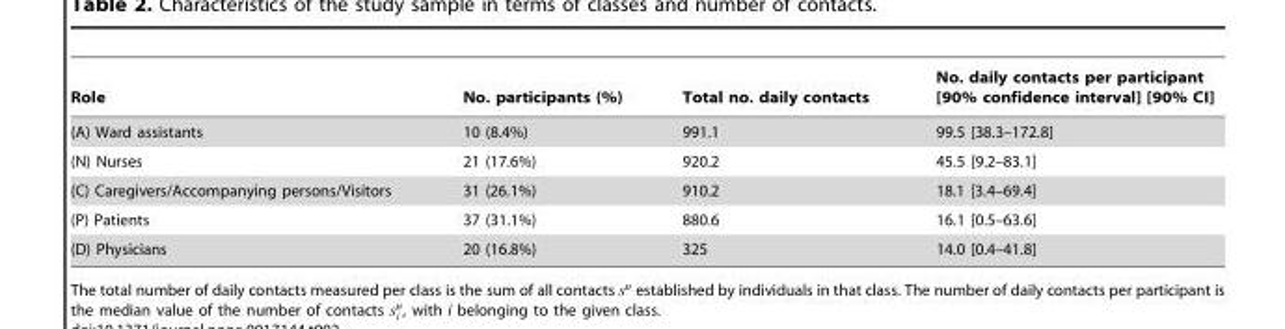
<table><thead><tr><td>Role</td><td>No. participants (%)</td><td>Total no. daily contacts</td><td>No. daily contacts per participant [90% confidence interval] [90% CI]</td></tr></thead><tbody><tr><td>(A) Ward assistants</td><td>10 (8.4%)</td><td>991.1</td><td>99.5 [38.3–172.8]</td></tr><tr><td>(N) Nurses</td><td>21 (17.6%)</td><td>920.2</td><td>45.5 [9.2–83.1]</td></tr><tr><td>(C) Caregivers/Accompanying persons/Visitors</td><td>31 (26.1%)</td><td>910.2</td><td>18.1 [3.4–69.4]</td></tr><tr><td>(P) Patients</td><td>37 (31.1%)</td><td>880.6</td><td>16.1 [0.5–63.6]</td></tr><tr><td>(D) Physicians</td><td>20 (16.8%)</td><td>325</td><td>14.0 [0.4–41.8]</td></tr></tbody></table>